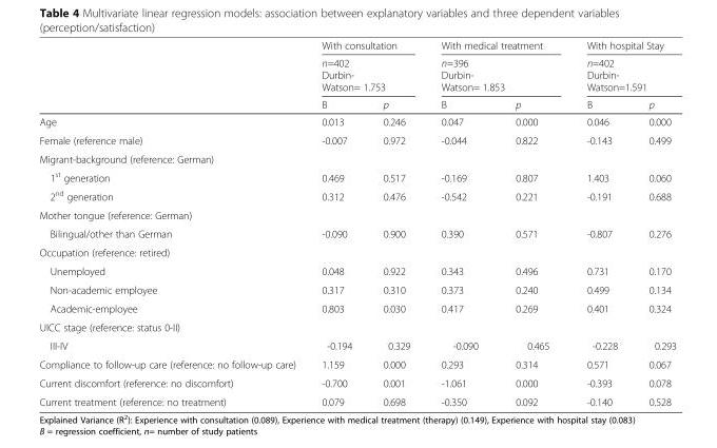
<table><thead><tr><td rowspan="3"></td><td rowspan="2" colspan="2">With consultation n=402 Durbin- Watson= 1.753</td><td rowspan="2" colspan="2">With medical treatment n=396 Durbin- Watson= 1.853</td><td rowspan="2" colspan="2">With hospital Stay n=402 Durbin- Watson=1.591</td></tr><tr></tr><tr><td>B</td><td>p</td><td>B</td><td>p</td><td>B</td><td>p</td></tr></thead><tbody><tr><td>Age</td><td>0.013</td><td>0.246</td><td>0.047</td><td>0.000</td><td>0.046</td><td>0.000</td></tr><tr><td>Female (reference male)</td><td>-0.007</td><td>0.972</td><td>-0.044</td><td>0.822</td><td>-0.143</td><td>0.499</td></tr><tr><td colspan="7">Migrant-background (reference: German)</td></tr><tr><td>1<sup>st</sup> generation</td><td>0.469</td><td>0.517</td><td>-0.169</td><td>0.807</td><td>1.403</td><td>0.060</td></tr><tr><td>2<sup>nd</sup> generation</td><td>0.312</td><td>0.476</td><td>-0.542</td><td>0.221</td><td>-0.191</td><td>0.688</td></tr><tr><td colspan="7">Mother tongue (reference: German)</td></tr><tr><td>Bilingual/other than German</td><td>-0.090</td><td>0.900</td><td>0.390</td><td>0.571</td><td>-0.807</td><td>0.276</td></tr><tr><td colspan="7">Occupation (reference: retired)</td></tr><tr><td>Unemployed</td><td>0.048</td><td>0.922</td><td>0.343</td><td>0.496</td><td>0.731</td><td>0.170</td></tr><tr><td>Non-academic employee</td><td>0.317</td><td>0.310</td><td>0.373</td><td>0.240</td><td>0.499</td><td>0.134</td></tr><tr><td>Academic-employee</td><td>0.803</td><td>0.030</td><td>0.417</td><td>0.269</td><td>0.401</td><td>0.324</td></tr><tr><td colspan="7">UICC stage (reference: status 0-II)</td></tr><tr><td>III-IV</td><td>-0.194</td><td>0.329</td><td>-0.090</td><td>0.465</td><td>-0.228</td><td>0.293</td></tr><tr><td>Compliance to follow-up care (reference: no follow-up care)</td><td>1.159</td><td>0.000</td><td>0.293</td><td>0.314</td><td>0.571</td><td>0.067</td></tr><tr><td>Current discomfort (reference: no discomfort)</td><td>-0.700</td><td>0.001</td><td>-1.061</td><td>0.000</td><td>-0.393</td><td>0.078</td></tr><tr><td>Current treatment (reference: no treatment)</td><td>0.079</td><td>0.698</td><td>-0.350</td><td>0.092</td><td>-0.140</td><td>0.528</td></tr></tbody></table>